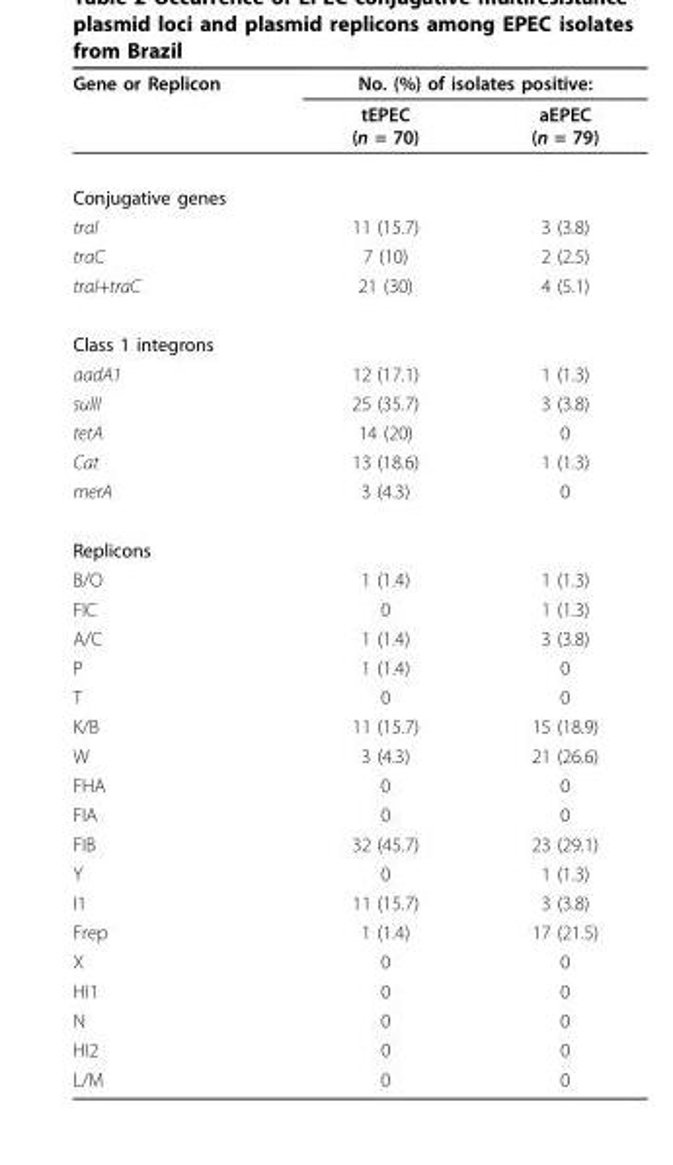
<table><tbody><tr><td rowspan="2">Gene or Replicon</td><td colspan="2">No. (%) of isolates positive:</td></tr><tr><td>tEPEC (n = 70)</td><td>aEPEC (n = 79)</td></tr><tr><td colspan="3">Conjugative genes</td></tr><tr><td>traI</td><td>11 (15.7)</td><td>3 (3.8)</td></tr><tr><td>traC</td><td>7 (10)</td><td>2 (2.5)</td></tr><tr><td>traI+traC</td><td>21 (30)</td><td>4 (5.1)</td></tr><tr><td colspan="3">Class 1 integrons</td></tr><tr><td>aadA1</td><td>12 (17.1)</td><td>1 (1.3)</td></tr><tr><td>sulII</td><td>25 (35.7)</td><td>3 (3.8)</td></tr><tr><td>tetA</td><td>14 (20)</td><td>0</td></tr><tr><td>Cat</td><td>13 (18.6)</td><td>1 (1.3)</td></tr><tr><td>merA</td><td>3 (4.3)</td><td>0</td></tr><tr><td colspan="3">Replicons</td></tr><tr><td>B/O</td><td>1 (1.4)</td><td>1 (1.3)</td></tr><tr><td>FIC</td><td>0</td><td>1 (1.3)</td></tr><tr><td>A/C</td><td>1 (1.4)</td><td>3 (3.8)</td></tr><tr><td>P</td><td>1 (1.4)</td><td>0</td></tr><tr><td>T</td><td>0</td><td>0</td></tr><tr><td>K/B</td><td>11 (15.7)</td><td>15 (18.9)</td></tr><tr><td>W</td><td>3 (4.3)</td><td>21 (26.6)</td></tr><tr><td>FHA</td><td>0</td><td>0</td></tr><tr><td>FIA</td><td>0</td><td>0</td></tr><tr><td>FIB</td><td>32 (45.7)</td><td>23 (29.1)</td></tr><tr><td>Y</td><td>0</td><td>1 (1.3)</td></tr><tr><td>I1</td><td>11 (15.7)</td><td>3 (3.8)</td></tr><tr><td>Frep</td><td>1 (1.4)</td><td>17 (21.5)</td></tr><tr><td>X</td><td>0</td><td>0</td></tr><tr><td>HI1</td><td>0</td><td>0</td></tr><tr><td>N</td><td>0</td><td>0</td></tr><tr><td>HI2</td><td>0</td><td>0</td></tr><tr><td>L/M</td><td>0</td><td>0</td></tr></tbody></table>